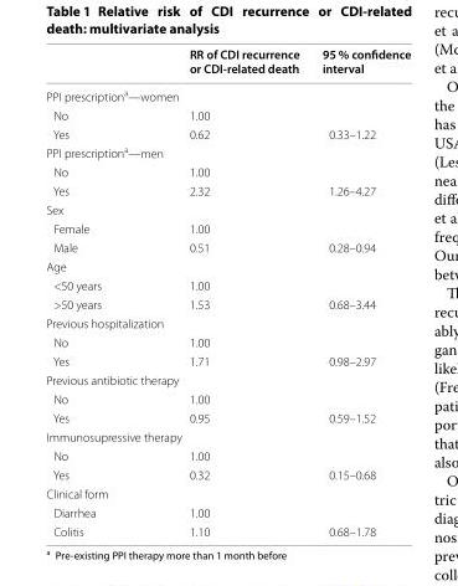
<table><thead><tr><td></td><td>RR of CDI recurrence or CDI-related death</td><td>95 % confidence interval</td></tr></thead><tbody><tr><td colspan="3">PPI prescription<sup>a</sup>—women</td></tr><tr><td>No</td><td>1.00</td><td></td></tr><tr><td>Yes</td><td>0.62</td><td>0.33–1.22</td></tr><tr><td colspan="3">PPI prescription<sup>a</sup>—men</td></tr><tr><td>No</td><td>1.00</td><td></td></tr><tr><td>Yes</td><td>2.32</td><td>1.26–4.27</td></tr><tr><td colspan="3">Sex</td></tr><tr><td>Female</td><td>1.00</td><td></td></tr><tr><td>Male</td><td>0.51</td><td>0.28–0.94</td></tr><tr><td colspan="3">Age</td></tr><tr><td>&lt;50 years</td><td>1.00</td><td></td></tr><tr><td>&gt;50 years</td><td>1.53</td><td>0.68–3.44</td></tr><tr><td colspan="3">Previous hospitalization</td></tr><tr><td>No</td><td>1.00</td><td></td></tr><tr><td>Yes</td><td>1.71</td><td>0.98–2.97</td></tr><tr><td colspan="3">Previous antibiotic therapy</td></tr><tr><td>No</td><td>1.00</td><td></td></tr><tr><td>Yes</td><td>0.95</td><td>0.59–1.52</td></tr><tr><td colspan="3">Immunosupressive therapy</td></tr><tr><td>No</td><td>1.00</td><td></td></tr><tr><td>Yes</td><td>0.32</td><td>0.15–0.68</td></tr><tr><td colspan="3">Clinical form</td></tr><tr><td>Diarrhea</td><td>1.00</td><td></td></tr><tr><td>Colitis</td><td>1.10</td><td>0.68–1.78</td></tr></tbody></table>